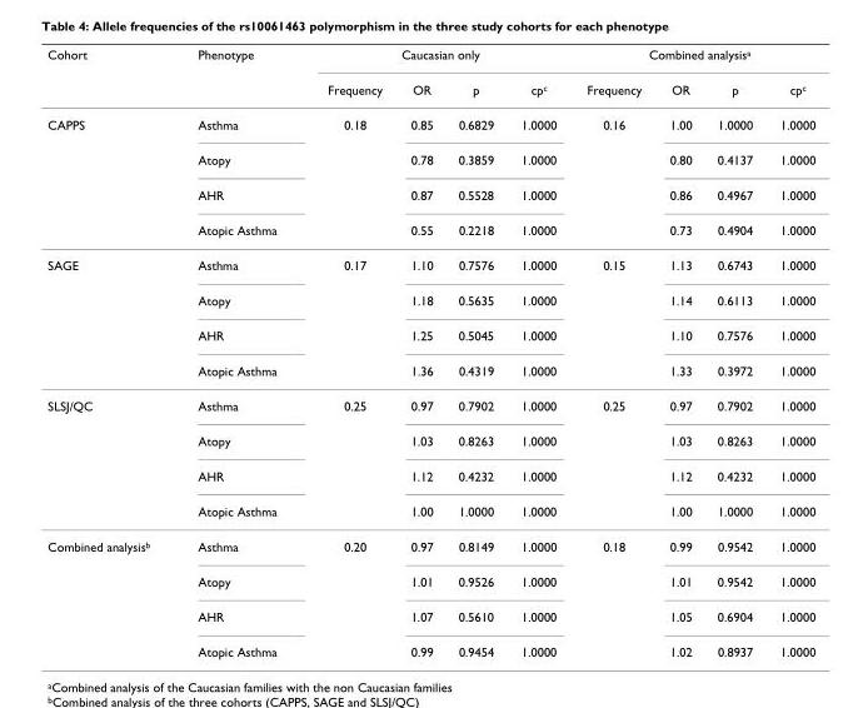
<table><thead><tr><td rowspan="2">Cohort</td><td rowspan="2">Phenotype</td><td colspan="4">Caucasian only</td><td colspan="4">Combined analysis<sup>a</sup></td></tr><tr><td>Frequency</td><td>OR</td><td>p</td><td>cp<sup>c</sup></td><td>Frequency</td><td>OR</td><td>p</td><td>cp<sup>c</sup></td></tr></thead><tbody><tr><td rowspan="4">CAPPS</td><td>Asthma</td><td>0.18</td><td>0.85</td><td>0.6829</td><td>1.0000</td><td>0.16</td><td>1.00</td><td>1.0000</td><td>1.0000</td></tr><tr><td>Atopy</td><td></td><td>0.78</td><td>0.3859</td><td>1.0000</td><td></td><td>0.80</td><td>0.4137</td><td>1.0000</td></tr><tr><td>AHR</td><td></td><td>0.87</td><td>0.5528</td><td>1.0000</td><td></td><td>0.86</td><td>0.4967</td><td>1.0000</td></tr><tr><td>Atopic Asthma</td><td></td><td>0.55</td><td>0.2218</td><td>1.0000</td><td></td><td>0.73</td><td>0.4904</td><td>1.0000</td></tr><tr><td rowspan="4">SAGE</td><td>Asthma</td><td>0.17</td><td>1.10</td><td>0.7576</td><td>1.0000</td><td>0.15</td><td>1.13</td><td>0.6743</td><td>1.0000</td></tr><tr><td>Atopy</td><td></td><td>1.18</td><td>0.5635</td><td>1.0000</td><td></td><td>1.14</td><td>0.6113</td><td>1.0000</td></tr><tr><td>AHR</td><td></td><td>1.25</td><td>0.5045</td><td>1.0000</td><td></td><td>1.10</td><td>0.7576</td><td>1.0000</td></tr><tr><td>Atopic Asthma</td><td></td><td>1.36</td><td>0.4319</td><td>1.0000</td><td></td><td>1.33</td><td>0.3972</td><td>1.0000</td></tr><tr><td rowspan="4">SLSJ/QC</td><td>Asthma</td><td>0.25</td><td>0.97</td><td>0.7902</td><td>1.0000</td><td>0.25</td><td>0.97</td><td>0.7902</td><td>1.0000</td></tr><tr><td>Atopy</td><td></td><td>1.03</td><td>0.8263</td><td>1.0000</td><td></td><td>1.03</td><td>0.8263</td><td>1.0000</td></tr><tr><td>AHR</td><td></td><td>1.12</td><td>0.4232</td><td>1.0000</td><td></td><td>1.12</td><td>0.4232</td><td>1.0000</td></tr><tr><td>Atopic Asthma</td><td></td><td>1.00</td><td>1.0000</td><td>1.0000</td><td></td><td>1.00</td><td>1.0000</td><td>1.0000</td></tr><tr><td rowspan="4">Combined analysis<sup>b</sup></td><td>Asthma</td><td>0.20</td><td>0.97</td><td>0.8149</td><td>1.0000</td><td>0.18</td><td>0.99</td><td>0.9542</td><td>1.0000</td></tr><tr><td>Atopy</td><td></td><td>1.01</td><td>0.9526</td><td>1.0000</td><td></td><td>1.01</td><td>0.9542</td><td>1.0000</td></tr><tr><td>AHR</td><td></td><td>1.07</td><td>0.5610</td><td>1.0000</td><td></td><td>1.05</td><td>0.6904</td><td>1.0000</td></tr><tr><td>Atopic Asthma</td><td></td><td>0.99</td><td>0.9454</td><td>1.0000</td><td></td><td>1.02</td><td>0.8937</td><td>1.0000</td></tr></tbody></table>